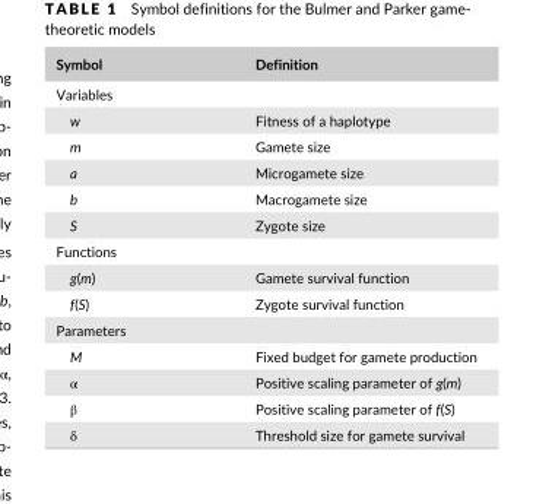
<table><thead><tr><td>Symbol</td><td>Definition</td></tr></thead><tbody><tr><td colspan="2">Variables</td></tr><tr><td>w</td><td>Fitness of a haplotype</td></tr><tr><td>m</td><td>Gamete size</td></tr><tr><td>a</td><td>Microgamete size</td></tr><tr><td>b</td><td>Macrogamete size</td></tr><tr><td>S</td><td>Zygote size</td></tr><tr><td colspan="2">Functions</td></tr><tr><td>g(m)</td><td>Gamete survival function</td></tr><tr><td>f(S)</td><td>Zygote survival function</td></tr><tr><td colspan="2">Parameters</td></tr><tr><td>M</td><td>Fixed budget for gamete production</td></tr><tr><td>α</td><td>Positive scaling parameter of g(m)</td></tr><tr><td>β</td><td>Positive scaling parameter of f(S)</td></tr><tr><td>δ</td><td>Threshold size for gamete survival</td></tr></tbody></table>